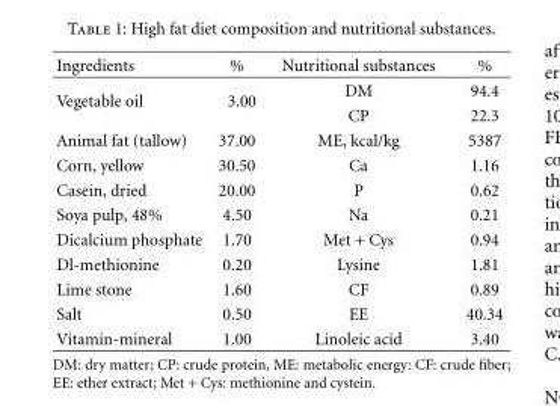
<table><thead><tr><td>Ingredients</td><td>%</td><td>Nutritional substances</td><td>%</td></tr></thead><tbody><tr><td rowspan="2">Vegetable oil</td><td rowspan="2">3.00</td><td>DM</td><td>94.4</td></tr><tr><td>CP</td><td>22.3</td></tr><tr><td>Animal fat (tallow)</td><td>37.00</td><td>ME, kcal/kg</td><td>5387</td></tr><tr><td>Corn, yellow</td><td>30.50</td><td>Ca</td><td>1.16</td></tr><tr><td>Casein, dried</td><td>20.00</td><td>P</td><td>0.62</td></tr><tr><td>Soya pulp, 48%</td><td>4.50</td><td>Na</td><td>0.21</td></tr><tr><td>Dicalcium phosphate</td><td>1.70</td><td>Met + Cys</td><td>0.94</td></tr><tr><td>Dl-methionine</td><td>0.20</td><td>Lysine</td><td>1.81</td></tr><tr><td>Lime stone</td><td>1.60</td><td>CF</td><td>0.89</td></tr><tr><td>Salt</td><td>0.50</td><td>EE</td><td>40.34</td></tr><tr><td>Vitamin-mineral</td><td>1.00</td><td>Linoleic acid</td><td>3.40</td></tr></tbody></table>